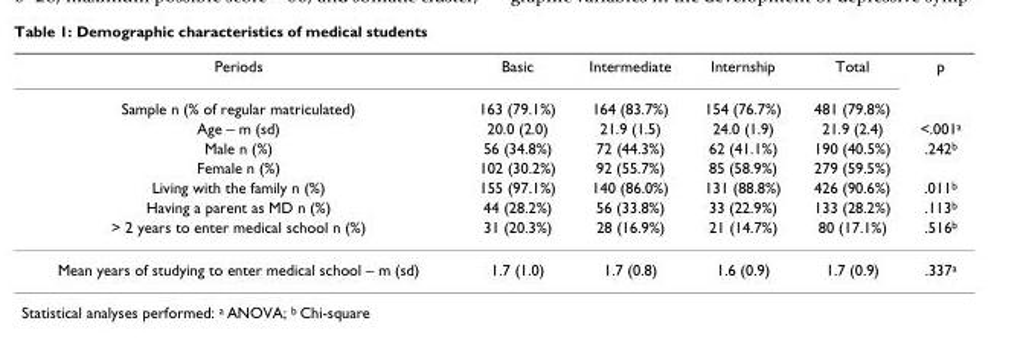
<table><thead><tr><td rowspan="8">Periods Sample n (% of regular matriculated) Age – m (sd) Male n (%) Female n (%) Living with the family n (%) Having a parent as MD n (%) &gt; 2 years to enter medical school n (%)</td><td rowspan="8">Basic 163 (79.1%) 20.0 (2.0) 56 (34.8%) 102 (30.2%) 155 (97.1%) 44 (28.2%) 31 (20.3%)</td><td rowspan="8">Intermediate 164 (83.7%) 21.9 (1.5) 72 (44.3%) 92 (55.7%) 140 (86.0%) 56 (33.8%) 28 (16.9%)</td><td rowspan="8">Internship 154 (76.7%) 24.0 (1.9) 62 (41.1%) 85 (58.9%) 131 (88.8%) 33 (22.9%) 21 (14.7%)</td><td rowspan="8">Total 481 (79.8%) 21.9 (2.4) 190 (40.5%) 279 (59.5%) 426 (90.6%) 133 (28.2%) 80 (17.1%)</td><td rowspan="8">p &lt;.001a .242b .011b .113b .516b</td></tr><tr></tr><tr></tr><tr></tr><tr></tr><tr></tr><tr></tr><tr></tr></thead><tbody><tr><td>Mean years of studying to enter medical school – m (sd)</td><td>1.7 (1.0)</td><td>1.7 (0.8)</td><td>1.6 (0.9)</td><td>1.7 (0.9)</td><td>.337<sup>a</sup></td></tr></tbody></table>